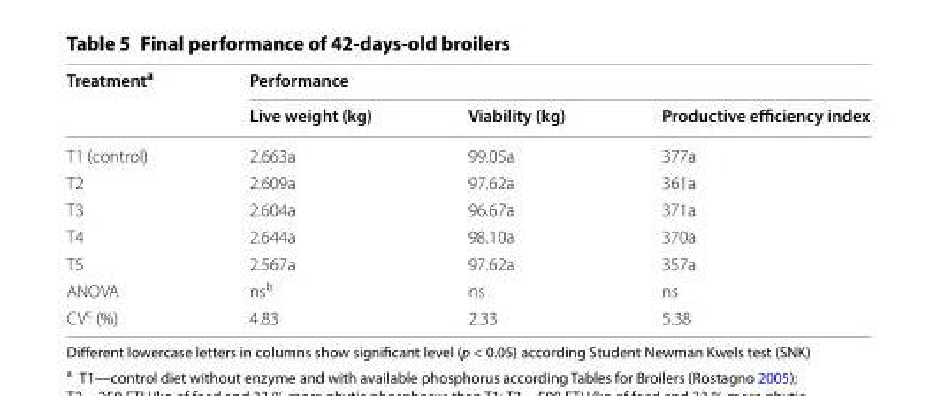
<table><thead><tr><td rowspan="2">Treatment<sup>a</sup></td><td colspan="3">Performance</td></tr><tr><td>Live weight (kg)</td><td>Viability (kg)</td><td>Productive efficiency index</td></tr></thead><tbody><tr><td>T1 (control)</td><td>2.663a</td><td>99.05a</td><td>377a</td></tr><tr><td>T2</td><td>2.609a</td><td>97.62a</td><td>361a</td></tr><tr><td>T3</td><td>2.604a</td><td>96.67a</td><td>371a</td></tr><tr><td>T4</td><td>2.644a</td><td>98.10a</td><td>370a</td></tr><tr><td>T5</td><td>2.567a</td><td>97.62a</td><td>357a</td></tr><tr><td>ANOVA</td><td>ns<sup>b</sup></td><td>ns</td><td>ns</td></tr><tr><td>CV<sup>c</sup> (%)</td><td>4.83</td><td>2.33</td><td>5.38</td></tr></tbody></table>